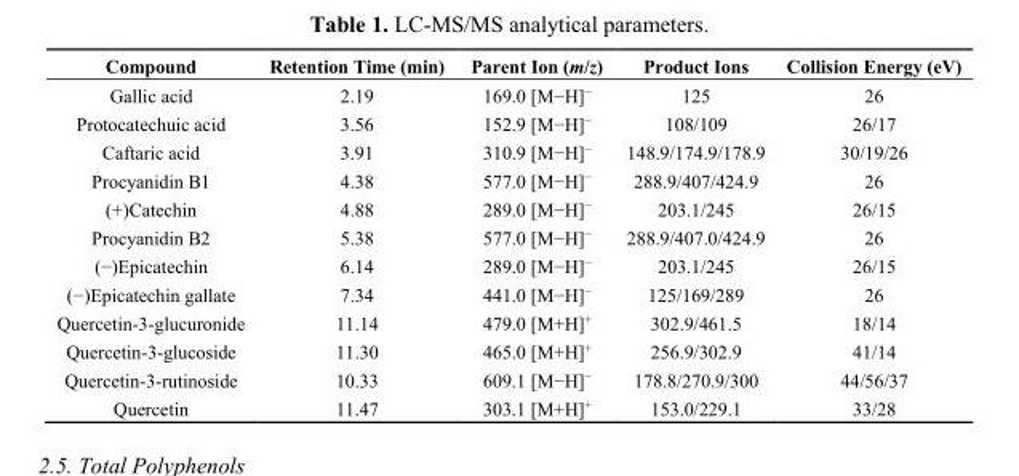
<table><thead><tr><td>Compound</td><td>Retention Time (min)</td><td>Parent Ion (m/z)</td><td>Product Ions</td><td>Collision Energy (eV)</td></tr></thead><tbody><tr><td>Gallic acid</td><td>2.19</td><td>169.0 [M−H]<sup>−</sup></td><td>125</td><td>26</td></tr><tr><td>Protocatechuic acid</td><td>3.56</td><td>152.9 [M−H]<sup>−</sup></td><td>108/109</td><td>26/17</td></tr><tr><td>Caftaric acid</td><td>3.91</td><td>310.9 [M−H]<sup>−</sup></td><td>148.9/174.9/178.9</td><td>30/19/26</td></tr><tr><td>Procyanidin B1</td><td>4.38</td><td>577.0 [M−H]<sup>−</sup></td><td>288.9/407/424.9</td><td>26</td></tr><tr><td>(+)Catechin</td><td>4.88</td><td>289.0 [M−H]<sup>−</sup></td><td>203.1/245</td><td>26/15</td></tr><tr><td>Procyanidin B2</td><td>5.38</td><td>577.0 [M−H]<sup>−</sup></td><td>288.9/407.0/424.9</td><td>26</td></tr><tr><td>(−)Epicatechin</td><td>6.14</td><td>289.0 [M−H]<sup>−</sup></td><td>203.1/245</td><td>26/15</td></tr><tr><td>(−)Epicatechin gallate</td><td>7.34</td><td>441.0 [M−H]<sup>−</sup></td><td>125/169/289</td><td>26</td></tr><tr><td>Quercetin-3-glucuronide</td><td>11.14</td><td>479.0 [M+H]<sup>+</sup></td><td>302.9/461.5</td><td>18/14</td></tr><tr><td>Quercetin-3-glucoside</td><td>11.30</td><td>465.0 [M+H]<sup>+</sup></td><td>256.9/302.9</td><td>41/14</td></tr><tr><td>Quercetin-3-rutinoside</td><td>10.33</td><td>609.1 [M−H]<sup>−</sup></td><td>178.8/270.9/300</td><td>44/56/37</td></tr><tr><td>Quercetin</td><td>11.47</td><td>303.1 [M+H]<sup>+</sup></td><td>153.0/229.1</td><td>33/28</td></tr></tbody></table>